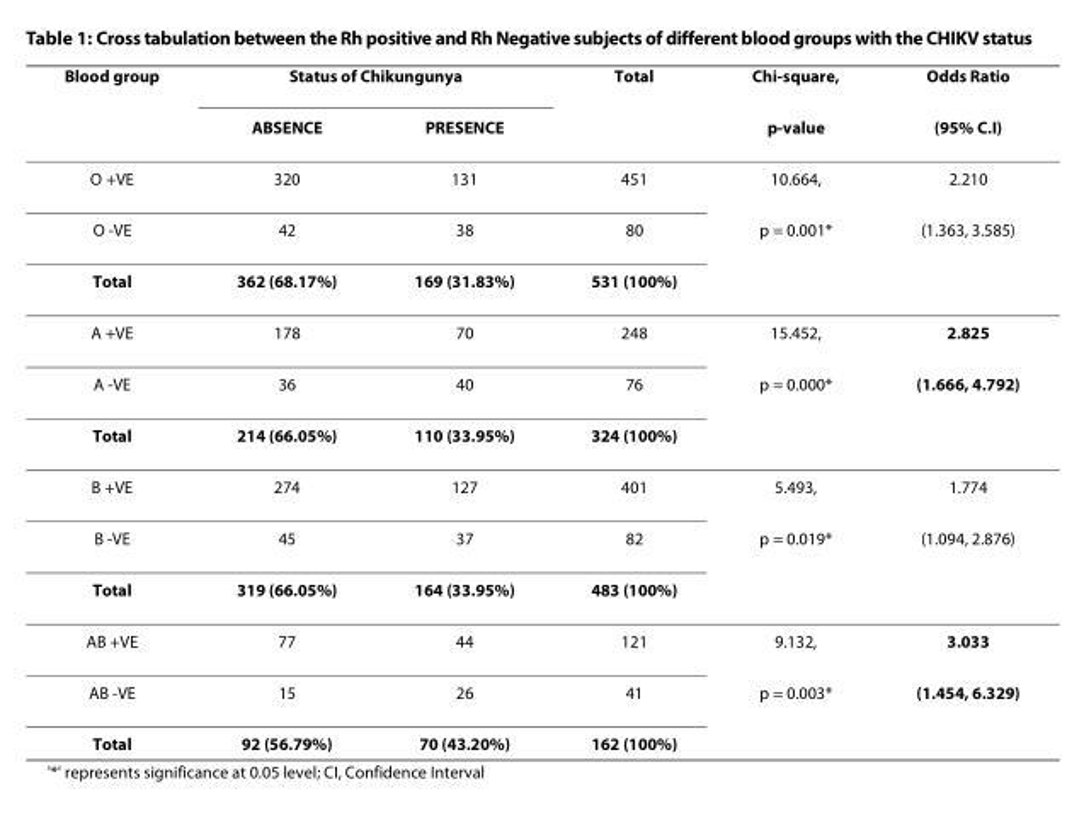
<table><thead><tr><td rowspan="2">Blood group</td><td colspan="2">Status of Chikungunya</td><td rowspan="2">Total</td><td rowspan="2">Chi-square, p-value</td><td rowspan="2">Odds Ratio (95% C.I)</td></tr><tr><td>ABSENCE</td><td>PRESENCE</td></tr></thead><tbody><tr><td>O +VE</td><td>320</td><td>131</td><td>451</td><td>10.664,</td><td>2.210</td></tr><tr><td>O -VE</td><td>42</td><td>38</td><td>80</td><td>p = 0.001*</td><td>(1.363, 3.585)</td></tr><tr><td>Total</td><td>362 (68.17%)</td><td>169 (31.83%)</td><td>531 (100%)</td><td></td><td></td></tr><tr><td>A +VE</td><td>178</td><td>70</td><td>248</td><td>15.452,</td><td>2.825</td></tr><tr><td>A -VE</td><td>36</td><td>40</td><td>76</td><td>p = 0.000*</td><td>(1.666, 4.792)</td></tr><tr><td>Total</td><td>214 (66.05%)</td><td>110 (33.95%)</td><td>324 (100%)</td><td></td><td></td></tr><tr><td>B +VE</td><td>274</td><td>127</td><td>401</td><td>5.493,</td><td>1.774</td></tr><tr><td>B -VE</td><td>45</td><td>37</td><td>82</td><td>p = 0.019*</td><td>(1.094, 2.876)</td></tr><tr><td>Total</td><td>319 (66.05%)</td><td>164 (33.95%)</td><td>483 (100%)</td><td></td><td></td></tr><tr><td>AB +VE</td><td>77</td><td>44</td><td>121</td><td>9.132,</td><td>3.033</td></tr><tr><td>AB -VE</td><td>15</td><td>26</td><td>41</td><td>p = 0.003*</td><td>(1.454, 6.329)</td></tr><tr><td>Total</td><td>92 (56.79%)</td><td>70 (43.20%)</td><td>162 (100%)</td><td></td><td></td></tr></tbody></table>